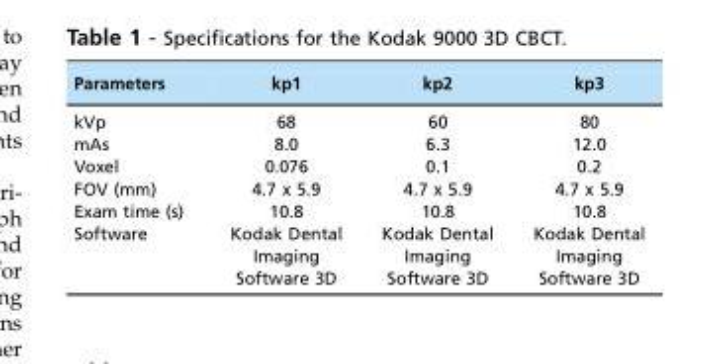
<table><thead><tr><td>Parameters</td><td>kp1</td><td>kp2</td><td>kp3</td></tr></thead><tbody><tr><td>kVp</td><td>68</td><td>60</td><td>80</td></tr><tr><td>mAs</td><td>8.0</td><td>6.3</td><td>12.0</td></tr><tr><td>Voxel</td><td>0.076</td><td>0.1</td><td>0.2</td></tr><tr><td>FOV (mm)</td><td>4.7 x 5.9</td><td>4.7 x 5.9</td><td>4.7 x 5.9</td></tr><tr><td>Exam time (s)</td><td>10.8</td><td>10.8</td><td>10.8</td></tr><tr><td>Software</td><td>Kodak Dental Imaging Software 3D</td><td>Kodak Dental Imaging Software 3D</td><td>Kodak Dental Imaging Software 3D</td></tr></tbody></table>